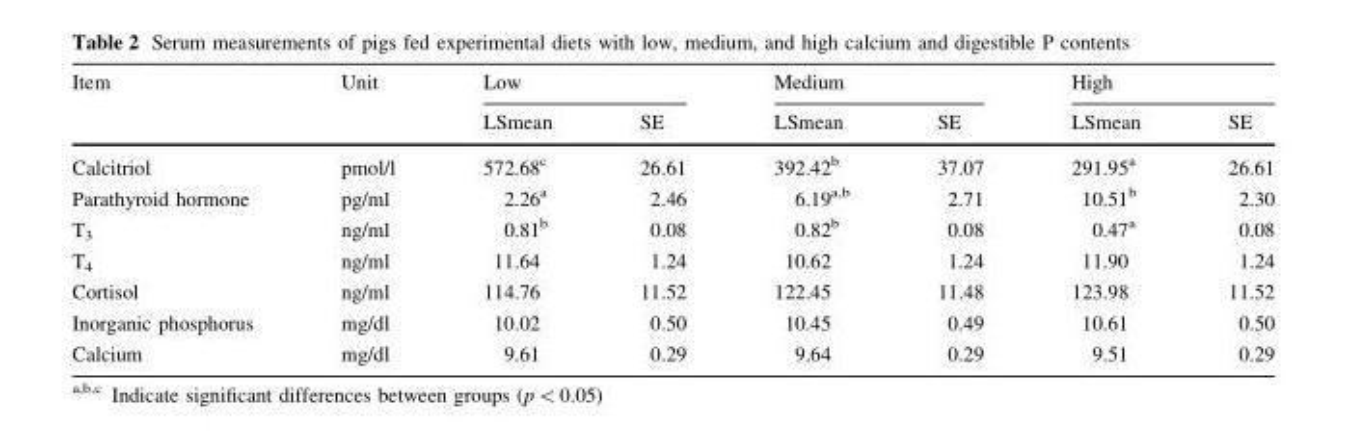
<table><thead><tr><td rowspan="2">Item</td><td rowspan="2">Unit</td><td colspan="2">Low</td><td colspan="2">Medium</td><td colspan="2">High</td></tr><tr><td>LSmean</td><td>SE</td><td>LSmean</td><td>SE</td><td>LSmean</td><td>SE</td></tr></thead><tbody><tr><td>Calcitriol</td><td>pmol/l</td><td>572.68<sup>c</sup></td><td>26.61</td><td>392.42<sup>b</sup></td><td>37.07</td><td>291.95<sup>a</sup></td><td>26.61</td></tr><tr><td>Parathyroid hormone</td><td>pg/ml</td><td>2.26<sup>a</sup></td><td>2.46</td><td>6.19<sup>a,b</sup></td><td>2.71</td><td>10.51<sup>b</sup></td><td>2.30</td></tr><tr><td>T<sub>3</sub></td><td>ng/ml</td><td>0.81<sup>b</sup></td><td>0.08</td><td>0.82<sup>b</sup></td><td>0.08</td><td>0.47<sup>a</sup></td><td>0.08</td></tr><tr><td>T<sub>4</sub></td><td>ng/ml</td><td>11.64</td><td>1.24</td><td>10.62</td><td>1.24</td><td>11.90</td><td>1.24</td></tr><tr><td>Cortisol</td><td>ng/ml</td><td>114.76</td><td>11.52</td><td>122.45</td><td>11.48</td><td>123.98</td><td>11.52</td></tr><tr><td>Inorganic phosphorus</td><td>mg/dl</td><td>10.02</td><td>0.50</td><td>10.45</td><td>0.49</td><td>10.61</td><td>0.50</td></tr><tr><td>Calcium</td><td>mg/dl</td><td>9.61</td><td>0.29</td><td>9.64</td><td>0.29</td><td>9.51</td><td>0.29</td></tr></tbody></table>